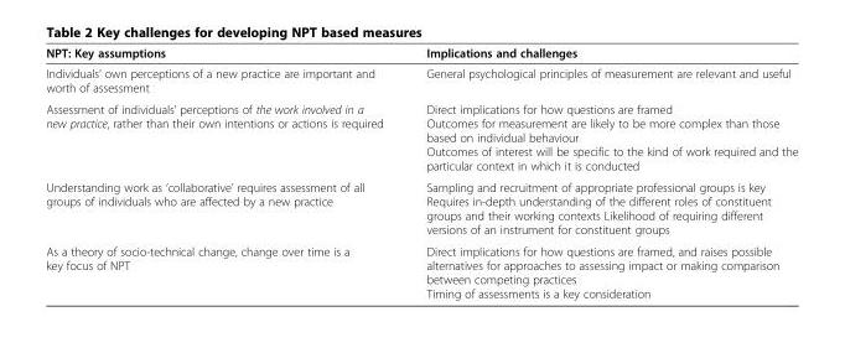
<table><thead><tr><td>NPT: Key assumptions</td><td>Implications and challenges</td></tr></thead><tbody><tr><td>Individuals’ own perceptions of a new practice are important and worth of assessment</td><td>General psychological principles of measurement are relevant and useful</td></tr><tr><td>Assessment of individuals’ perceptions of the work involved in a new practice, rather than their own intentions or actions is required</td><td>Direct implications for how questions are framed Outcomes for measurement are likely to be more complex than those based on individual behaviour Outcomes of interest will be specific to the kind of work required and the particular context in which it is conducted</td></tr><tr><td>Understanding work as ‘collaborative’ requires assessment of all groups of individuals who are affected by a new practice</td><td>Sampling and recruitment of appropriate professional groups is key Requires in-depth understanding of the different roles of constituent groups and their working contexts Likelihood of requiring different versions of an instrument for constituent groups</td></tr><tr><td>As a theory of socio-technical change, change over time is a key focus of NPT</td><td>Direct implications for how questions are framed, and raises possible alternatives for approaches to assessing impact or making comparison between competing practices Timing of assessments is a key consideration</td></tr></tbody></table>